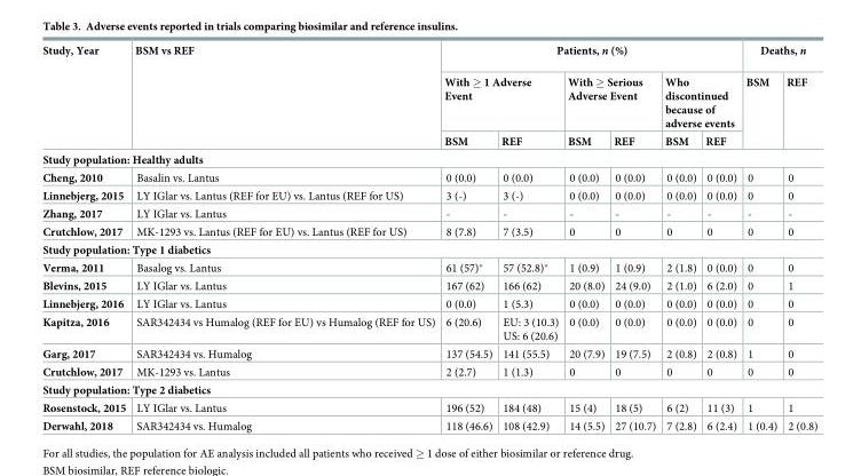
<table><thead><tr><td rowspan="3">Study, Year</td><td rowspan="3">BSM vs REF</td><td colspan="6">Patients, n (%)</td><td colspan="2">Deaths, n</td></tr><tr><td colspan="2">With ≥ 1 Adverse Event</td><td colspan="2">With ≥ Serious Adverse Event</td><td colspan="2">Who discontinued because of adverse events</td><td rowspan="2">BSM</td><td rowspan="2">REF</td></tr><tr><td>BSM</td><td>REF</td><td>BSM</td><td>REF</td><td>BSM</td><td>REF</td></tr></thead><tbody><tr><td colspan="10">Study population: Healthy adults</td></tr><tr><td>Cheng, 2010</td><td>Basalin vs. Lantus</td><td>0 (0.0)</td><td>0 (0.0)</td><td>0 (0.0)</td><td>0 (0.0)</td><td>0 (0.0)</td><td>0 (0.0)</td><td>0</td><td>0</td></tr><tr><td>Linnebjerg, 2015</td><td>LY IGlar vs. Lantus (REF for EU) vs. Lantus (REF for US)</td><td>3 (-)</td><td>3 (-)</td><td>0 (0.0)</td><td>0 (0.0)</td><td>0 (0.0)</td><td>0 (0.0)</td><td>0</td><td>0</td></tr><tr><td>Zhang, 2017</td><td>LY IGlar vs. Lantus</td><td>-</td><td>-</td><td>-</td><td>-</td><td>-</td><td>-</td><td>-</td><td>-</td></tr><tr><td>Crutchlow, 2017</td><td>MK-1293 vs. Lantus (REF for EU) vs. Lantus (REF for US)</td><td>8 (7.8)</td><td>7 (3.5)</td><td>0</td><td>0</td><td>0</td><td>0</td><td>0</td><td>0</td></tr><tr><td colspan="10">Study population: Type 1 diabetics</td></tr><tr><td>Verma, 2011</td><td>Basalog vs. Lantus</td><td>61 (57)*</td><td>57 (52.8)*</td><td>1 (0.9)</td><td>1 (0.9)</td><td>2 (1.8)</td><td>0 (0.0)</td><td>0</td><td>0</td></tr><tr><td>Blevins, 2015</td><td>LY IGlar vs. Lantus</td><td>167 (62)</td><td>166 (62)</td><td>20 (8.0)</td><td>24 (9.0)</td><td>2 (1.0)</td><td>6 (2.0)</td><td>0</td><td>1</td></tr><tr><td>Linnebjerg, 2016</td><td>LY IGlar vs. Lantus</td><td>0 (0.0)</td><td>1 (5.3)</td><td>0 (0.0)</td><td>0 (0.0)</td><td>0 (0.0)</td><td>0 (0.0)</td><td>0</td><td>0</td></tr><tr><td>Kapitza, 2016</td><td>SAR342434 vs Humalog (REF for EU) vs Humalog (REF for US)</td><td>6 (20.6)</td><td>EU: 3 (10.3) US: 6 (20.6)</td><td>0 (0.0)</td><td>0 (0.0)</td><td>0 (0.0)</td><td>0 (0.0)</td><td>0</td><td>0</td></tr><tr><td>Garg, 2017</td><td>SAR342434 vs. Humalog</td><td>137 (54.5)</td><td>141 (55.5)</td><td>20 (7.9)</td><td>19 (7.5)</td><td>2 (0.8)</td><td>2 (0.8)</td><td>1</td><td>0</td></tr><tr><td>Crutchlow, 2017</td><td>MK-1293 vs. Lantus</td><td>2 (2.7)</td><td>1 (1.3)</td><td>0</td><td>0</td><td>0</td><td>0</td><td>0</td><td>0</td></tr><tr><td colspan="10">Study population: Type 2 diabetics</td></tr><tr><td>Rosenstock, 2015</td><td>LY IGlar vs. Lantus</td><td>196 (52)</td><td>184 (48)</td><td>15 (4)</td><td>18 (5)</td><td>6 (2)</td><td>11 (3)</td><td>1</td><td>1</td></tr><tr><td>Derwahl, 2018</td><td>SAR342434 vs. Humalog</td><td>118 (46.6)</td><td>108 (42.9)</td><td>14 (5.5)</td><td>27 (10.7)</td><td>7 (2.8)</td><td>6 (2.4)</td><td>1 (0.4)</td><td>2 (0.8)</td></tr></tbody></table>